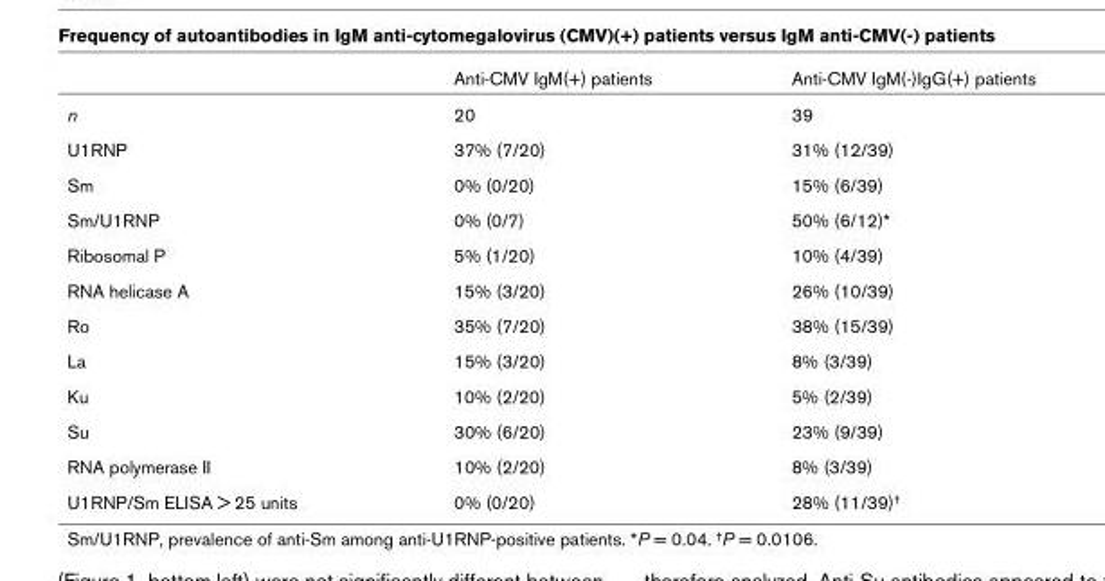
<table><thead><tr><td></td><td>Anti-CMV IgM(+) patients</td><td>Anti-CMV IgM(-)IgG(+) patients</td></tr></thead><tbody><tr><td>n</td><td>20</td><td>39</td></tr><tr><td>U1RNP</td><td>37% (7/20)</td><td>31% (12/39)</td></tr><tr><td>Sm</td><td>0% (0/20)</td><td>15% (6/39)</td></tr><tr><td>Sm/U1RNP</td><td>0% (0/7)</td><td>50% (6/12)*</td></tr><tr><td>Ribosomal P</td><td>5% (1/20)</td><td>10% (4/39)</td></tr><tr><td>RNA helicase A</td><td>15% (3/20)</td><td>26% (10/39)</td></tr><tr><td>Ro</td><td>35% (7/20)</td><td>38% (15/39)</td></tr><tr><td>La</td><td>15% (3/20)</td><td>8% (3/39)</td></tr><tr><td>Ku</td><td>10% (2/20)</td><td>5% (2/39)</td></tr><tr><td>Su</td><td>30% (6/20)</td><td>23% (9/39)</td></tr><tr><td>RNA polymerase II</td><td>10% (2/20)</td><td>8% (3/39)</td></tr><tr><td>U1RNP/Sm ELISA &gt; 25 units</td><td>0% (0/20)</td><td>28% (11/39)<sup>†</sup></td></tr></tbody></table>